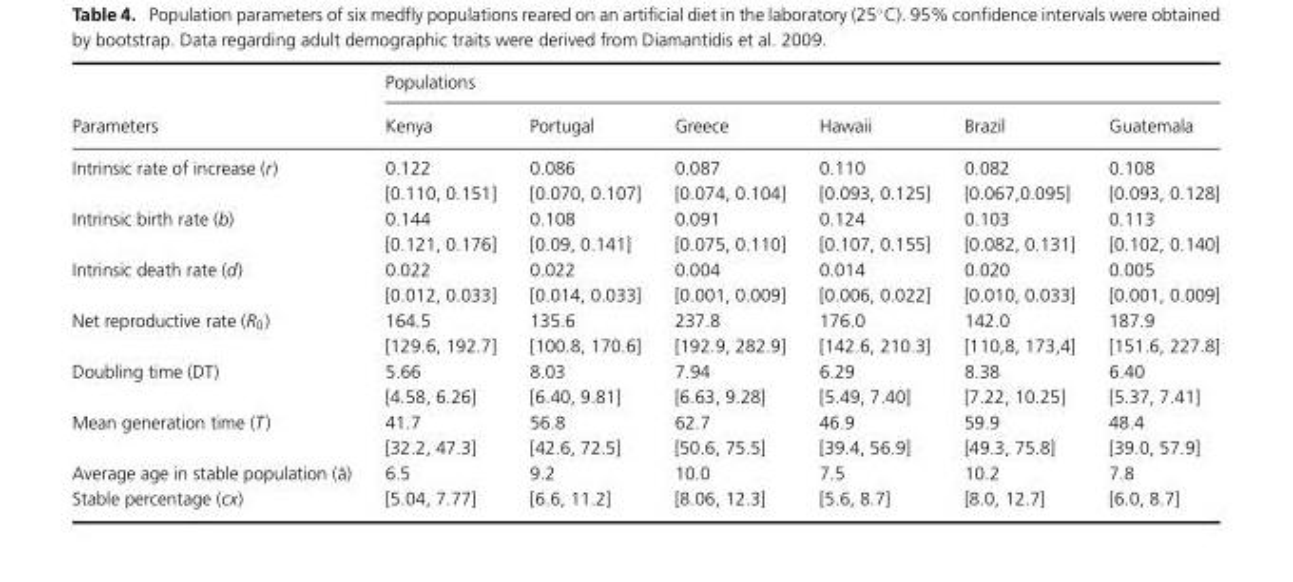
<table><thead><tr><td rowspan="2">Parameters</td><td colspan="6">Populations</td></tr><tr><td>Kenya</td><td>Portugal</td><td>Greece</td><td>Hawaii</td><td>Brazil</td><td>Guatemala</td></tr></thead><tbody><tr><td rowspan="2">Intrinsic rate of increase (r)</td><td>0.122</td><td>0.086</td><td>0.087</td><td>0.110</td><td>0.082</td><td>0.108</td></tr><tr><td>[0.110, 0.151]</td><td>[0.070, 0.107]</td><td>[0.074, 0.104]</td><td>[0.093, 0.125]</td><td>[0.067,0.095]</td><td>[0.093, 0.128]</td></tr><tr><td rowspan="2">Intrinsic birth rate (b)</td><td>0.144</td><td>0.108</td><td>0.091</td><td>0.124</td><td>0.103</td><td>0.113</td></tr><tr><td>[0.121, 0.176]</td><td>[0.09, 0.141]</td><td>[0.075, 0.110]</td><td>[0.107, 0.155]</td><td>[0.082, 0.131]</td><td>[0.102, 0.140]</td></tr><tr><td rowspan="2">Intrinsic death rate (d)</td><td>0.022</td><td>0.022</td><td>0.004</td><td>0.014</td><td>0.020</td><td>0.005</td></tr><tr><td>[0.012, 0.033]</td><td>[0.014, 0.033]</td><td>[0.001, 0.009]</td><td>[0.006, 0.022]</td><td>[0.010, 0.033]</td><td>[0.001, 0.009]</td></tr><tr><td rowspan="2">Net reproductive rate (R<sub>0</sub>)</td><td>164.5</td><td>135.6</td><td>237.8</td><td>176.0</td><td>142.0</td><td>187.9</td></tr><tr><td>[129.6, 192.7]</td><td>[100.8, 170.6]</td><td>[192.9, 282.9]</td><td>[142.6, 210.3]</td><td>[110,8, 173,4]</td><td>[151.6, 227.8]</td></tr><tr><td rowspan="2">Doubling time (DT)</td><td>5.66</td><td>8.03</td><td>7.94</td><td>6.29</td><td>8.38</td><td>6.40</td></tr><tr><td>[4.58, 6.26]</td><td>[6.40, 9.81]</td><td>[6.63, 9.28]</td><td>[5.49, 7.40]</td><td>[7.22, 10.25]</td><td>[5.37, 7.41]</td></tr><tr><td rowspan="2">Mean generation time (T)</td><td>41.7</td><td>56.8</td><td>62.7</td><td>46.9</td><td>59.9</td><td>48.4</td></tr><tr><td>[32.2, 47.3]</td><td>[42.6, 72.5]</td><td>[50.6, 75.5]</td><td>[39.4, 56.9]</td><td>[49.3, 75.8]</td><td>[39.0, 57.9]</td></tr><tr><td>Average age in stable population (¯a)</td><td>6.5</td><td>9.2</td><td>10.0</td><td>7.5</td><td>10.2</td><td>7.8</td></tr><tr><td>Stable percentage (cx)</td><td>[5.04, 7.77]</td><td>[6.6, 11.2]</td><td>[8.06, 12.3]</td><td>[5.6, 8.7]</td><td>[8.0, 12.7]</td><td>[6.0, 8.7]</td></tr></tbody></table>